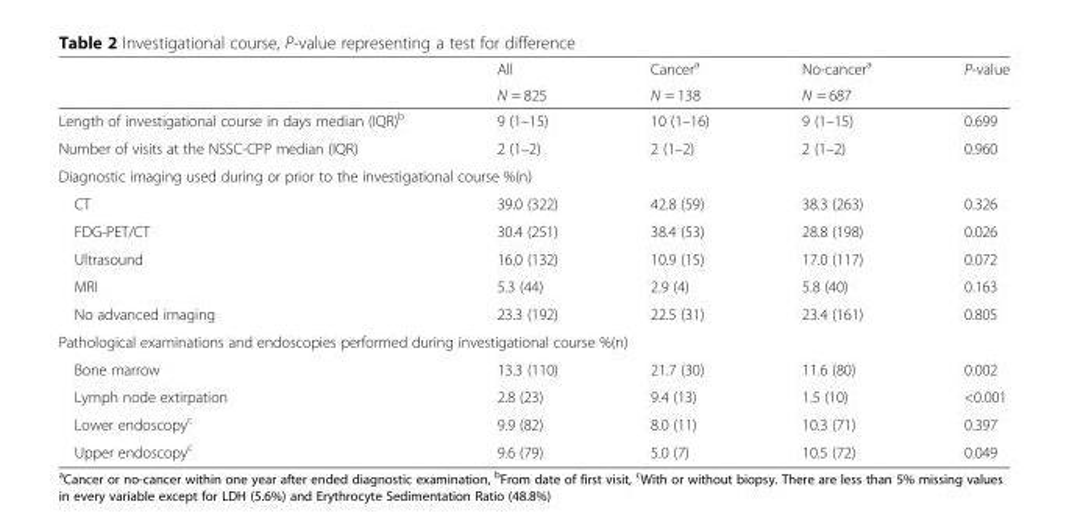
<table><thead><tr><td rowspan="2"></td><td rowspan="2">All N = 825</td><td rowspan="2">Cancer<sup>a</sup> N = 138</td><td rowspan="2">No-cancer<sup>a</sup> N = 687</td><td rowspan="2">P-value</td></tr><tr></tr></thead><tbody><tr><td>Length of investigational course in days median (IQR)<sup>b</sup></td><td>9 (1–15)</td><td>10 (1–16)</td><td>9 (1–15)</td><td>0.699</td></tr><tr><td>Number of visits at the NSSC-CPP median (IQR)</td><td>2 (1–2)</td><td>2 (1–2)</td><td>2 (1–2)</td><td>0.960</td></tr><tr><td colspan="5">Diagnostic imaging used during or prior to the investigational course %(n)</td></tr><tr><td>CT</td><td>39.0 (322)</td><td>42.8 (59)</td><td>38.3 (263)</td><td>0.326</td></tr><tr><td>FDG-PET/CT</td><td>30.4 (251)</td><td>38.4 (53)</td><td>28.8 (198)</td><td>0.026</td></tr><tr><td>Ultrasound</td><td>16.0 (132)</td><td>10.9 (15)</td><td>17.0 (117)</td><td>0.072</td></tr><tr><td>MRI</td><td>5.3 (44)</td><td>2.9 (4)</td><td>5.8 (40)</td><td>0.163</td></tr><tr><td>No advanced imaging</td><td>23.3 (192)</td><td>22.5 (31)</td><td>23.4 (161)</td><td>0.805</td></tr><tr><td colspan="5">Pathological examinations and endoscopies performed during investigational course %(n)</td></tr><tr><td>Bone marrow</td><td>13.3 (110)</td><td>21.7 (30)</td><td>11.6 (80)</td><td>0.002</td></tr><tr><td>Lymph node extirpation</td><td>2.8 (23)</td><td>9.4 (13)</td><td>1.5 (10)</td><td>&lt;0.001</td></tr><tr><td>Lower endoscopy<sup>c</sup></td><td>9.9 (82)</td><td>8.0 (11)</td><td>10.3 (71)</td><td>0.397</td></tr><tr><td>Upper endoscopy<sup>c</sup></td><td>9.6 (79)</td><td>5.0 (7)</td><td>10.5 (72)</td><td>0.049</td></tr></tbody></table>